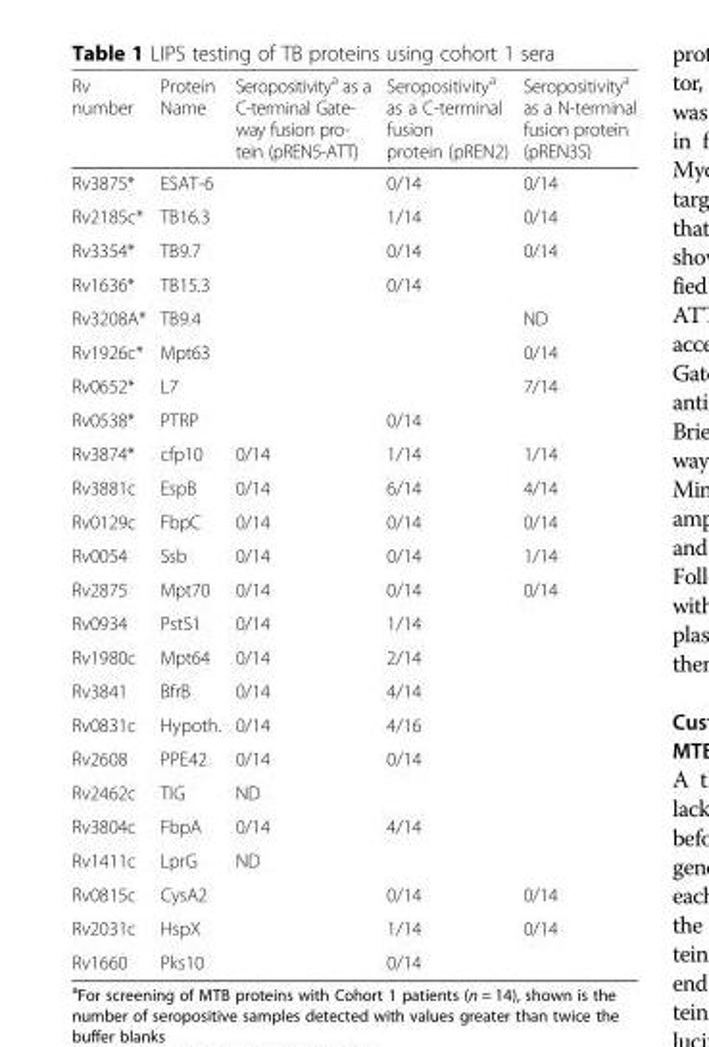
<table><thead><tr><td>Rv number</td><td>Protein Name</td><td>Seropositivitya as a C-terminal Gate- way fusion pro- tein (pREN5-ATT)</td><td>Seropositivity<sup>a</sup> as a C-terminal fusion protein (pREN2)</td><td>Seropositivity<sup>a</sup> as a N-terminal fusion protein (pREN3S)</td></tr></thead><tbody><tr><td>Rv3875*</td><td>ESAT-6</td><td></td><td>0/14</td><td>0/14</td></tr><tr><td>Rv2185c*</td><td>TB16.3</td><td></td><td>1/14</td><td>0/14</td></tr><tr><td>Rv3354*</td><td>TB9.7</td><td></td><td>0/14</td><td>0/14</td></tr><tr><td>Rv1636*</td><td>TB15.3</td><td></td><td>0/14</td><td></td></tr><tr><td>Rv3208A*</td><td>TB9.4</td><td></td><td></td><td>ND</td></tr><tr><td>Rv1926c*</td><td>Mpt63</td><td></td><td></td><td>0/14</td></tr><tr><td>Rv0652*</td><td>L7</td><td></td><td></td><td>7/14</td></tr><tr><td>Rv0538*</td><td>PTRP</td><td></td><td>0/14</td><td></td></tr><tr><td>Rv3874*</td><td>cfp10</td><td>0/14</td><td>1/14</td><td>1/14</td></tr><tr><td>Rv3881c</td><td>EspB</td><td>0/14</td><td>6/14</td><td>4/14</td></tr><tr><td>Rv0129c</td><td>FbpC</td><td>0/14</td><td>0/14</td><td>0/14</td></tr><tr><td>Rv0054</td><td>Ssb</td><td>0/14</td><td>0/14</td><td>1/14</td></tr><tr><td>Rv2875</td><td>Mpt70</td><td>0/14</td><td>0/14</td><td>0/14</td></tr><tr><td>Rv0934</td><td>PstS1</td><td>0/14</td><td>1/14</td><td></td></tr><tr><td>Rv1980c</td><td>Mpt64</td><td>0/14</td><td>2/14</td><td></td></tr><tr><td>Rv3841</td><td>BfrB</td><td>0/14</td><td>4/14</td><td></td></tr><tr><td>Rv0831c</td><td>Hypoth.</td><td>0/14</td><td>4/16</td><td></td></tr><tr><td>Rv2608</td><td>PPE42</td><td>0/14</td><td>0/14</td><td></td></tr><tr><td>Rv2462c</td><td>TIG</td><td>ND</td><td></td><td></td></tr><tr><td>Rv3804c</td><td>FbpA</td><td>0/14</td><td>4/14</td><td></td></tr><tr><td>Rv1411c</td><td>LprG</td><td>ND</td><td></td><td></td></tr><tr><td>Rv0815c</td><td>CysA2</td><td></td><td>0/14</td><td>0/14</td></tr><tr><td>Rv2031c</td><td>HspX</td><td></td><td>1/14</td><td>0/14</td></tr><tr><td>Rv1660</td><td>Pks10</td><td></td><td>0/14</td><td></td></tr></tbody></table>